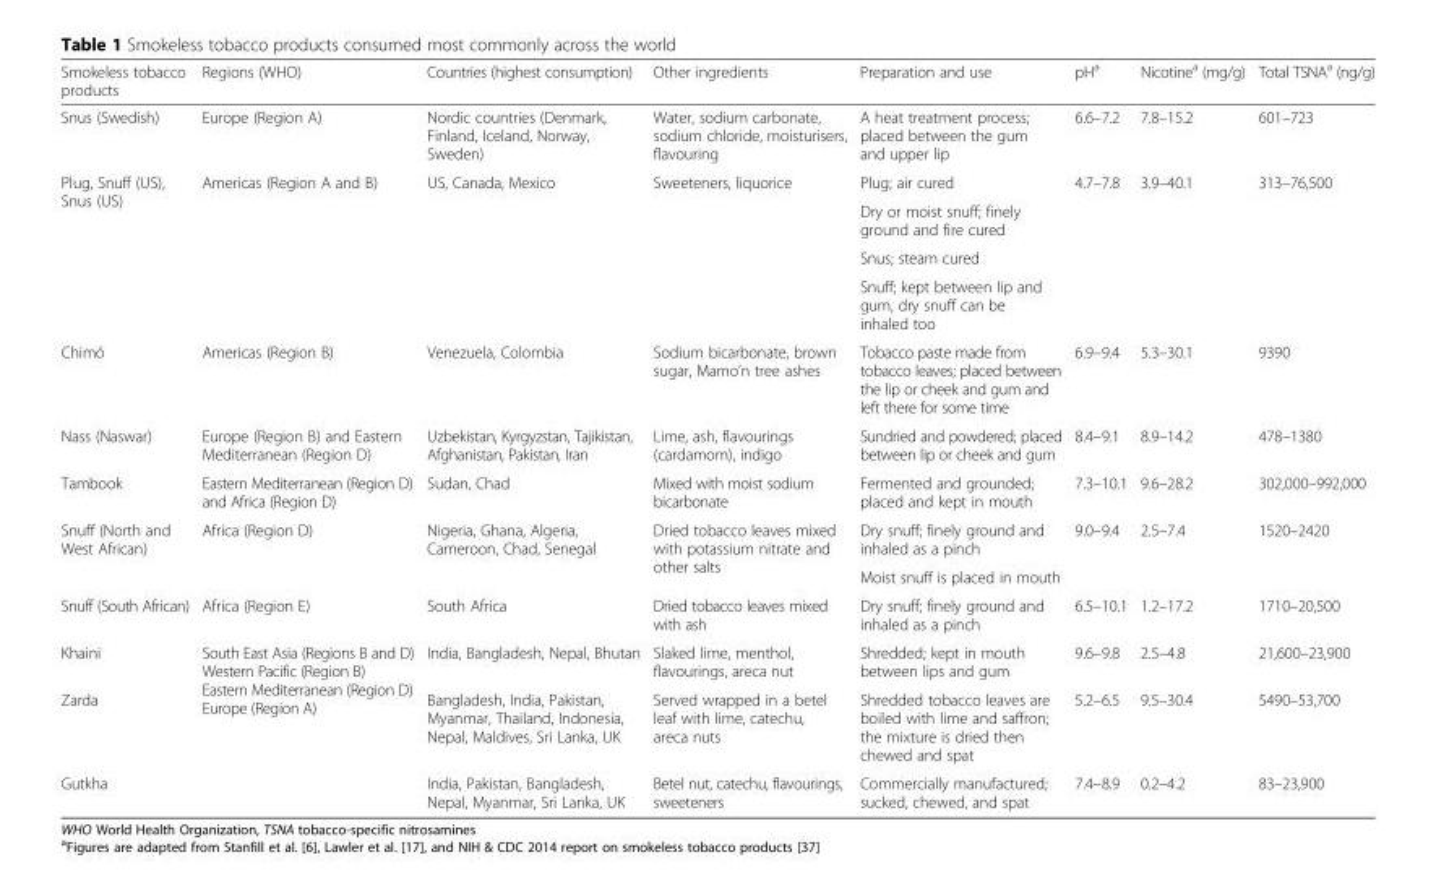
<table><thead><tr><td>Smokeless tobacco products</td><td>Regions (WHO)</td><td>Countries (highest consumption)</td><td>Other ingredients</td><td>Preparation and use</td><td>pH<sup>a</sup></td><td>Nicotine<sup>a</sup> (mg/g)</td><td>Total TSNA<sup>a</sup> (ng/g)</td></tr></thead><tbody><tr><td>Snus (Swedish)</td><td>Europe (Region A)</td><td>Nordic countries (Denmark, Finland, Iceland, Norway, Sweden)</td><td>Water, sodium carbonate, sodium chloride, moisturisers, flavouring</td><td>A heat treatment process; placed between the gum and upper lip</td><td>6.6–7.2</td><td>7.8–15.2</td><td>601–723</td></tr><tr><td rowspan="4">Plug, Snuff (US), Snus (US)</td><td rowspan="4">Americas (Region A and B)</td><td rowspan="4">US, Canada, Mexico</td><td rowspan="4">Sweeteners, liquorice</td><td>Plug; air cured</td><td rowspan="4">4.7–7.8</td><td rowspan="4">3.9–40.1</td><td rowspan="4">313–76,500</td></tr><tr><td>Dry or moist snuff; finely ground and fire cured</td></tr><tr><td>Snus; steam cured</td></tr><tr><td>Snuff; kept between lip and gum, dry snuff can be inhaled too</td></tr><tr><td>Chimó</td><td>Americas (Region B)</td><td>Venezuela, Colombia</td><td>Sodium bicarbonate, brown sugar, Mamo’n tree ashes</td><td>Tobacco paste made from tobacco leaves; placed between the lip or cheek and gum and left there for some time</td><td>6.9–9.4</td><td>5.3–30.1</td><td>9390</td></tr><tr><td>Nass (Naswar)</td><td>Europe (Region B) and Eastern Mediterranean (Region D)</td><td>Uzbekistan, Kyrgyzstan, Tajikistan, Afghanistan, Pakistan, Iran</td><td>Lime, ash, flavourings (cardamom), indigo</td><td>Sundried and powdered; placed between lip or cheek and gum</td><td>8.4–9.1</td><td>8.9–14.2</td><td>478–1380</td></tr><tr><td>Tambook</td><td>Eastern Mediterranean (Region D) and Africa (Region D)</td><td>Sudan, Chad</td><td>Mixed with moist sodium bicarbonate</td><td>Fermented and grounded; placed and kept in mouth</td><td>7.3–10.1</td><td>9.6–28.2</td><td>302,000–992,000</td></tr><tr><td rowspan="2">Snuff (North and West African)</td><td rowspan="2">Africa (Region D)</td><td rowspan="2">Nigeria, Ghana, Algeria, Cameroon, Chad, Senegal</td><td rowspan="2">Dried tobacco leaves mixed with potassium nitrate and other salts</td><td>Dry snuff; finely ground and inhaled as a pinch</td><td rowspan="2">9.0–9.4</td><td rowspan="2">2.5–7.4</td><td rowspan="2">1520–2420</td></tr><tr><td>Moist snuff is placed in mouth</td></tr><tr><td>Snuff (South African)</td><td>Africa (Region E)</td><td>South Africa</td><td>Dried tobacco leaves mixed with ash</td><td>Dry snuff; finely ground and inhaled as a pinch</td><td>6.5–10.1</td><td>1.2–17.2</td><td>1710–20,500</td></tr><tr><td>Khaini</td><td rowspan="3">South East Asia (Regions B and D) Western Pacific (Region B) Eastern Mediterranean (Region D) Europe (Region A)</td><td>India, Bangladesh, Nepal, Bhutan</td><td>Slaked lime, menthol, flavourings, areca nut</td><td>Shredded; kept in mouth between lips and gum</td><td>9.6–9.8</td><td>2.5–4.8</td><td>21,600–23,900</td></tr><tr><td>Zarda</td><td>Bangladesh, India, Pakistan, Myanmar, Thailand, Indonesia, Nepal, Maldives, Sri Lanka, UK</td><td>Served wrapped in a betel leaf with lime, catechu, areca nuts</td><td>Shredded tobacco leaves are boiled with lime and saffron; the mixture is dried then chewed and spat</td><td>5.2–6.5</td><td>9.5–30.4</td><td>5490–53,700</td></tr><tr><td>Gutkha</td><td>India, Pakistan, Bangladesh, Nepal, Myanmar, Sri Lanka, UK</td><td>Betel nut, catechu, flavourings, sweeteners</td><td>Commercially manufactured; sucked, chewed, and spat</td><td>7.4–8.9</td><td>0.2–4.2</td><td>83–23,900</td></tr></tbody></table>